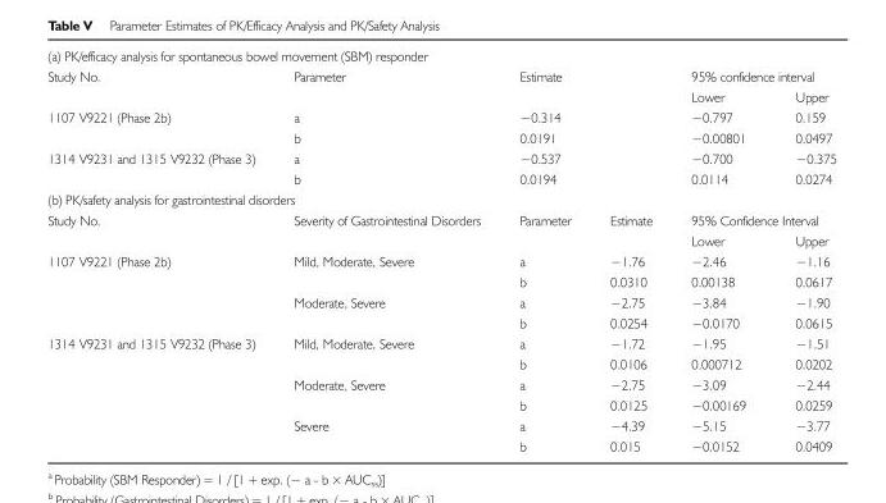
<table><tbody><tr><td colspan="6">(a) PK/efficacy analysis for spontaneous bowel movement (SBM) responder</td></tr><tr><td rowspan="2">Study No.</td><td rowspan="2">Parameter</td><td rowspan="2" colspan="2">Estimate</td><td colspan="2">95% confidence interval</td></tr><tr><td>Lower</td><td>Upper</td></tr><tr><td rowspan="2">1107 V9221 (Phase 2b)</td><td>a</td><td colspan="2">−0.314</td><td>−0.797</td><td>0.159</td></tr><tr><td>b</td><td colspan="2">0.0191</td><td>−0.00801</td><td>0.0497</td></tr><tr><td rowspan="2">1314 V9231 and 1315 V9232 (Phase 3)</td><td>a</td><td colspan="2">−0.537</td><td>−0.700</td><td>−0.375</td></tr><tr><td>b</td><td colspan="2">0.0194</td><td>0.0114</td><td>0.0274</td></tr><tr><td colspan="6">(b) PK/safety analysis for gastrointestinal disorders</td></tr><tr><td rowspan="2">Study No.</td><td rowspan="2">Severity of Gastrointestinal Disorders</td><td rowspan="2">Parameter</td><td rowspan="2">Estimate</td><td colspan="2">95% Confidence Interval</td></tr><tr><td>Lower</td><td>Upper</td></tr><tr><td rowspan="4">1107 V9221 (Phase 2b)</td><td rowspan="2">Mild, Moderate, Severe</td><td>a</td><td>−1.76</td><td>−2.46</td><td>−1.16</td></tr><tr><td>b</td><td>0.0310</td><td>0.00138</td><td>0.0617</td></tr><tr><td rowspan="2">Moderate, Severe</td><td>a</td><td>−2.75</td><td>−3.84</td><td>−1.90</td></tr><tr><td>b</td><td>0.0254</td><td>−0.0170</td><td>0.0615</td></tr><tr><td rowspan="6">1314 V9231 and 1315 V9232 (Phase 3)</td><td rowspan="2">Mild, Moderate, Severe</td><td>a</td><td>−1.72</td><td>−1.95</td><td>−1.51</td></tr><tr><td>b</td><td>0.0106</td><td>0.000712</td><td>0.0202</td></tr><tr><td rowspan="2">Moderate, Severe</td><td>a</td><td>−2.75</td><td>−3.09</td><td>−2.44</td></tr><tr><td>b</td><td>0.0125</td><td>−0.00169</td><td>0.0259</td></tr><tr><td rowspan="2">Severe</td><td>a</td><td>−4.39</td><td>−5.15</td><td>−3.77</td></tr><tr><td>b</td><td>0.015</td><td>−0.0152</td><td>0.0409</td></tr></tbody></table>